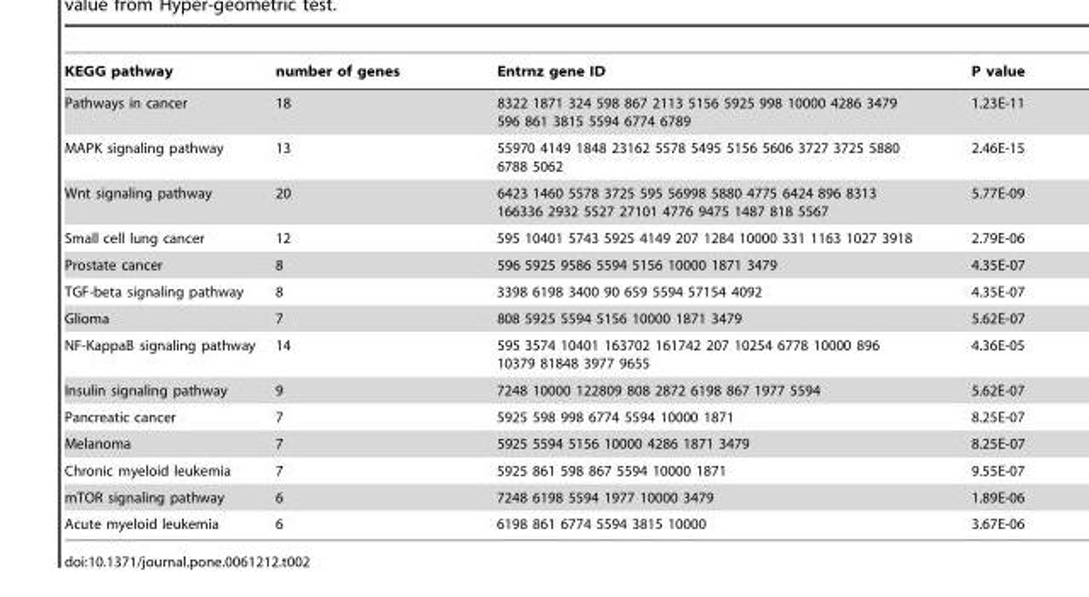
<table><thead><tr><td>KEGG pathway</td><td>number of genes</td><td>Entrnz gene ID</td><td>P value</td></tr></thead><tbody><tr><td>Pathways in cancer</td><td>18</td><td>8322 1871 324 598 867 2113 5156 5925 998 10000 4286 3479 596 861 3815 5594 6774 6789</td><td>1.23E-11</td></tr><tr><td>MAPK signaling pathway</td><td>13</td><td>55970 4149 1848 23162 5578 5495 5156 5606 3727 3725 5880 6788 5062</td><td>2.46E-15</td></tr><tr><td>Wnt signaling pathway</td><td>20</td><td>6423 1460 5578 3725 595 56998 5880 4775 6424 896 8313 166336 2932 5527 27101 4776 9475 1487 818 5567</td><td>5.77E-09</td></tr><tr><td>Small cell lung cancer</td><td>12</td><td>595 10401 5743 5925 4149 207 1284 10000 331 1163 1027 3918</td><td>2.79E-06</td></tr><tr><td>Prostate cancer</td><td>8</td><td>596 5925 9586 5594 5156 10000 1871 3479</td><td>4.35E-07</td></tr><tr><td>TGF-beta signaling pathway</td><td>8</td><td>3398 6198 3400 90 659 5594 57154 4092</td><td>4.35E-07</td></tr><tr><td>Glioma</td><td>7</td><td>808 5925 5594 5156 10000 1871 3479</td><td>5.62E-07</td></tr><tr><td>NF-KappaB signaling pathway</td><td>14</td><td>595 3574 10401 163702 161742 207 10254 6778 10000 896 10379 81848 3977 9655</td><td>4.36E-05</td></tr><tr><td>Insulin signaling pathway</td><td>9</td><td>7248 10000 122809 808 2872 6198 867 1977 5594</td><td>5.62E-07</td></tr><tr><td>Pancreatic cancer</td><td>7</td><td>5925 598 998 6774 5594 10000 1871</td><td>8.25E-07</td></tr><tr><td>Melanoma</td><td>7</td><td>5925 5594 5156 10000 4286 1871 3479</td><td>8.25E-07</td></tr><tr><td>Chronic myeloid leukemia</td><td>7</td><td>5925 861 598 867 5594 10000 1871</td><td>9.55E-07</td></tr><tr><td>mTOR signaling pathway</td><td>6</td><td>7248 6198 5594 1977 10000 3479</td><td>1.89E-06</td></tr><tr><td>Acute myeloid leukemia</td><td>6</td><td>6198 861 6774 5594 3815 10000</td><td>3.67E-06</td></tr></tbody></table>